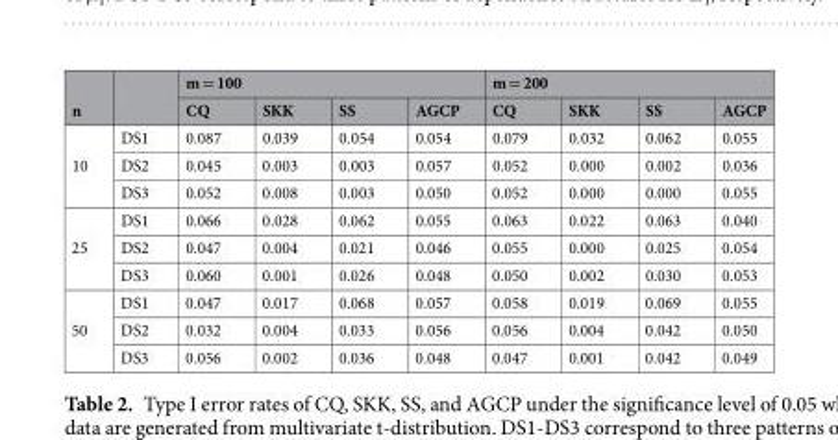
<table><thead><tr><td rowspan="2">n</td><td rowspan="2"></td><td colspan="4">m = 100</td><td colspan="4">m = 200</td></tr><tr><td>CQ</td><td>SKK</td><td>SS</td><td>AGCP</td><td>CQ</td><td>SKK</td><td>SS</td><td>AGCP</td></tr></thead><tbody><tr><td rowspan="3">10</td><td>DS1</td><td>0.087</td><td>0.039</td><td>0.054</td><td>0.054</td><td>0.079</td><td>0.032</td><td>0.062</td><td>0.055</td></tr><tr><td>DS2</td><td>0.045</td><td>0.003</td><td>0.003</td><td>0.057</td><td>0.052</td><td>0.000</td><td>0.002</td><td>0.036</td></tr><tr><td>DS3</td><td>0.052</td><td>0.008</td><td>0.003</td><td>0.050</td><td>0.052</td><td>0.000</td><td>0.000</td><td>0.055</td></tr><tr><td rowspan="3">25</td><td>DS1</td><td>0.066</td><td>0.028</td><td>0.062</td><td>0.055</td><td>0.063</td><td>0.022</td><td>0.063</td><td>0.040</td></tr><tr><td>DS2</td><td>0.047</td><td>0.004</td><td>0.021</td><td>0.046</td><td>0.055</td><td>0.000</td><td>0.025</td><td>0.054</td></tr><tr><td>DS3</td><td>0.060</td><td>0.001</td><td>0.026</td><td>0.048</td><td>0.050</td><td>0.002</td><td>0.030</td><td>0.053</td></tr><tr><td rowspan="3">50</td><td>DS1</td><td>0.047</td><td>0.017</td><td>0.068</td><td>0.057</td><td>0.058</td><td>0.019</td><td>0.069</td><td>0.055</td></tr><tr><td>DS2</td><td>0.032</td><td>0.004</td><td>0.033</td><td>0.056</td><td>0.056</td><td>0.004</td><td>0.042</td><td>0.050</td></tr><tr><td>DS3</td><td>0.056</td><td>0.002</td><td>0.036</td><td>0.048</td><td>0.047</td><td>0.001</td><td>0.042</td><td>0.049</td></tr></tbody></table>